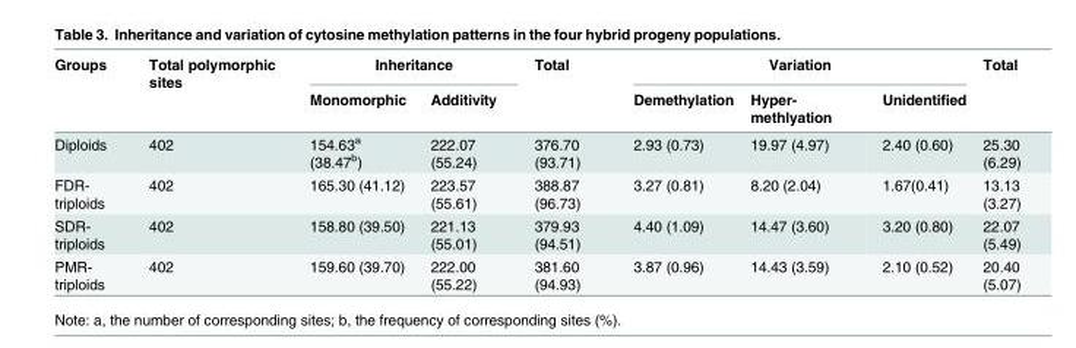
<table><thead><tr><td rowspan="2">Groups</td><td rowspan="2">Total polymorphic sites</td><td colspan="2">Inheritance</td><td rowspan="2">Total</td><td colspan="3">Variation</td><td rowspan="2">Total</td></tr><tr><td>Monomorphic</td><td>Additivity</td><td>Demethylation</td><td>Hyper- methlyation</td><td>Unidentified</td></tr></thead><tbody><tr><td>Diploids</td><td>402</td><td>154.63<sup>a</sup> (38.47<sup>b</sup>)</td><td>222.07 (55.24)</td><td>376.70 (93.71)</td><td>2.93 (0.73)</td><td>19.97 (4.97)</td><td>2.40 (0.60)</td><td>25.30 (6.29)</td></tr><tr><td>FDR- triploids</td><td>402</td><td>165.30 (41.12)</td><td>223.57 (55.61)</td><td>388.87 (96.73)</td><td>3.27 (0.81)</td><td>8.20 (2.04)</td><td>1.67(0.41)</td><td>13.13 (3.27)</td></tr><tr><td>SDR- triploids</td><td>402</td><td>158.80 (39.50)</td><td>221.13 (55.01)</td><td>379.93 (94.51)</td><td>4.40 (1.09)</td><td>14.47 (3.60)</td><td>3.20 (0.80)</td><td>22.07 (5.49)</td></tr><tr><td>PMR- triploids</td><td>402</td><td>159.60 (39.70)</td><td>222.00 (55.22)</td><td>381.60 (94.93)</td><td>3.87 (0.96)</td><td>14.43 (3.59)</td><td>2.10 (0.52)</td><td>20.40 (5.07)</td></tr></tbody></table>